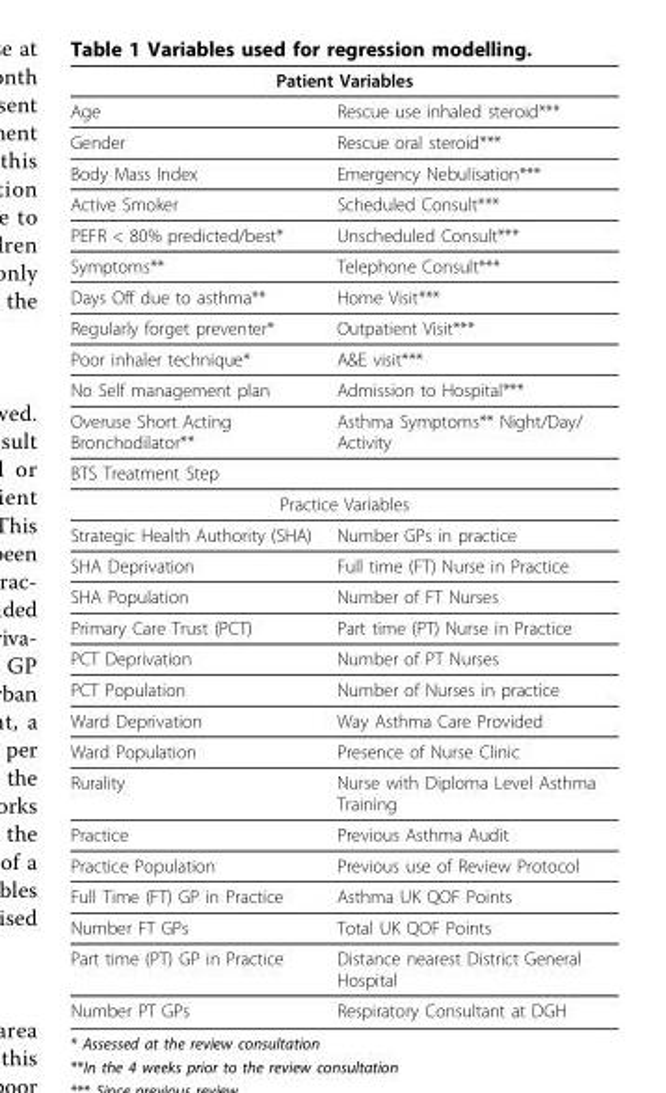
<table><thead><tr><td colspan="2">Patient Variables</td></tr><tr><td>Age</td><td>Rescue use inhaled steroid***</td></tr></thead><tbody><tr><td>Gender</td><td>Rescue oral steroid***</td></tr><tr><td>Body Mass Index</td><td>Emergency Nebulisation***</td></tr><tr><td>Active Smoker</td><td>Scheduled Consult***</td></tr><tr><td>PEFR &lt; 80% predicted/best*</td><td>Unscheduled Consult***</td></tr><tr><td>Symptoms**</td><td>Telephone Consult***</td></tr><tr><td>Days Off due to asthma**</td><td>Home Visit***</td></tr><tr><td>Regularly forget preventer*</td><td>Outpatient Visit***</td></tr><tr><td>Poor inhaler technique*</td><td>A&amp;E visit***</td></tr><tr><td>No Self management plan</td><td>Admission to Hospital***</td></tr><tr><td>Overuse Short Acting Bronchodilator**</td><td>Asthma Symptoms** Night/Day/ Activity</td></tr><tr><td colspan="2">BTS Treatment Step</td></tr><tr><td colspan="2">Practice Variables</td></tr><tr><td>Strategic Health Authority (SHA)</td><td>Number GPs in practice</td></tr><tr><td>SHA Deprivation</td><td>Full time (FT) Nurse in Practice</td></tr><tr><td>SHA Population</td><td>Number of FT Nurses</td></tr><tr><td>Primary Care Trust (PCT)</td><td>Part time (PT) Nurse in Practice</td></tr><tr><td>PCT Deprivation</td><td>Number of PT Nurses</td></tr><tr><td>PCT Population</td><td>Number of Nurses in practice</td></tr><tr><td>Ward Deprivation</td><td>Way Asthma Care Provided</td></tr><tr><td>Ward Population</td><td>Presence of Nurse Clinic</td></tr><tr><td>Rurality</td><td>Nurse with Diploma Level Asthma Training</td></tr><tr><td>Practice</td><td>Previous Asthma Audit</td></tr><tr><td>Practice Population</td><td>Previous use of Review Protocol</td></tr><tr><td>Full Time (FT) GP in Practice</td><td>Asthma UK QOF Points</td></tr><tr><td>Number FT GPs</td><td>Total UK QOF Points</td></tr><tr><td>Part time (PT) GP in Practice</td><td>Distance nearest District General Hospital</td></tr><tr><td>Number PT GPs</td><td>Respiratory Consultant at DGH</td></tr></tbody></table>